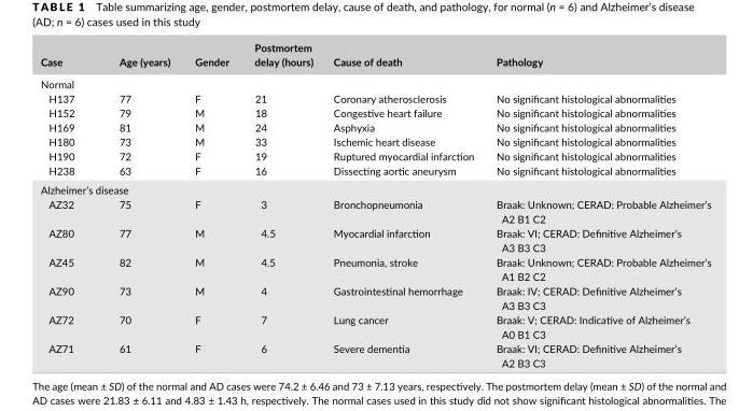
<table><thead><tr><td>Case</td><td>Age (years)</td><td>Gender</td><td>Postmortem delay (hours)</td><td>Cause of death</td><td>Pathology</td></tr></thead><tbody><tr><td colspan="6">Normal</td></tr><tr><td>H137</td><td>77</td><td>F</td><td>21</td><td>Coronary atherosclerosis</td><td>No significant histological abnormalities</td></tr><tr><td>H152</td><td>79</td><td>M</td><td>18</td><td>Congestive heart failure</td><td>No significant histological abnormalities</td></tr><tr><td>H169</td><td>81</td><td>M</td><td>24</td><td>Asphyxia</td><td>No significant histological abnormalities</td></tr><tr><td>H180</td><td>73</td><td>M</td><td>33</td><td>Ischemic heart disease</td><td>No significant histological abnormalities</td></tr><tr><td>H190</td><td>72</td><td>F</td><td>19</td><td>Ruptured myocardial infarction</td><td>No significant histological abnormalities</td></tr><tr><td>H238</td><td>63</td><td>F</td><td>16</td><td>Dissecting aortic aneurysm</td><td>No significant histological abnormalities</td></tr><tr><td colspan="6">Alzheimer’s disease</td></tr><tr><td>AZ32</td><td>75</td><td>F</td><td>3</td><td>Bronchopneumonia</td><td>Braak: Unknown; CERAD: Probable Alzheimer’s A2 B1 C2</td></tr><tr><td>AZ80</td><td>77</td><td>M</td><td>4.5</td><td>Myocardial infarction</td><td>Braak: VI; CERAD: Definitive Alzheimer’s A3 B3 C3</td></tr><tr><td>AZ45</td><td>82</td><td>M</td><td>4.5</td><td>Pneumonia, stroke</td><td>Braak: Unknown; CERAD: Probable Alzheimer’s A1 B2 C2</td></tr><tr><td>AZ90</td><td>73</td><td>M</td><td>4</td><td>Gastrointestinal hemorrhage</td><td>Braak: IV; CERAD: Definitive Alzheimer’s A3 B3 C3</td></tr><tr><td>AZ72</td><td>70</td><td>F</td><td>7</td><td>Lung cancer</td><td>Braak: V; CERAD: Indicative of Alzheimer’s A0 B1 C3</td></tr><tr><td>AZ71</td><td>61</td><td>F</td><td>6</td><td>Severe dementia</td><td>Braak: VI; CERAD: Definitive Alzheimer’s A2 B3 C3</td></tr></tbody></table>